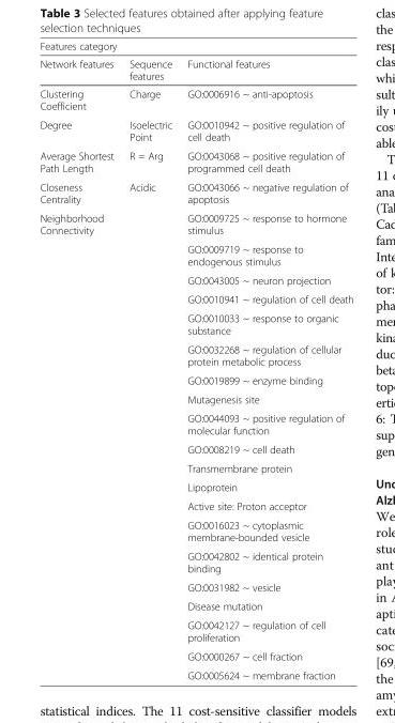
<table><thead><tr><td colspan="3">Features category</td></tr><tr><td>Network features</td><td>Sequence features</td><td>Functional features</td></tr></thead><tbody><tr><td>Clustering Coefficient</td><td>Charge</td><td>GO:0006916 ~ anti-apoptosis</td></tr><tr><td>Degree</td><td>Isoelectric Point</td><td>GO:0010942 ~ positive regulation of cell death</td></tr><tr><td>Average Shortest Path Length</td><td>R = Arg</td><td>GO:0043068 ~ positive regulation of programmed cell death</td></tr><tr><td>Closeness Centrality</td><td>Acidic</td><td>GO:0043066 ~ negative regulation of apoptosis</td></tr><tr><td rowspan="20">Neighborhood Connectivity</td><td rowspan="20"></td><td>GO:0009725 ~ response to hormone stimulus</td></tr><tr><td>GO:0009719 ~ response to endogenous stimulus</td></tr><tr><td>GO:0043005 ~ neuron projection</td></tr><tr><td>GO:0010941 ~ regulation of cell death</td></tr><tr><td>GO:0010033 ~ response to organic substance</td></tr><tr><td>GO:0032268 ~ regulation of cellular protein metabolic process</td></tr><tr><td>GO:0019899 ~ enzyme binding</td></tr><tr><td>Mutagenesis site</td></tr><tr><td>GO:0044093 ~ positive regulation of molecular function</td></tr><tr><td>GO:0008219 ~ cell death</td></tr><tr><td>Transmembrane protein</td></tr><tr><td>Lipoprotein</td></tr><tr><td>Active site: Proton acceptor</td></tr><tr><td>GO:0016023 ~ cytoplasmic membrane-bounded vesicle</td></tr><tr><td>GO:0042802 ~ identical protein binding</td></tr><tr><td>GO:0031982 ~ vesicle</td></tr><tr><td>Disease mutation</td></tr><tr><td>GO:0042127 ~ regulation of cell proliferation</td></tr><tr><td>GO:0000267 ~ cell fraction</td></tr><tr><td>GO:0005624 ~ membrane fraction</td></tr></tbody></table>